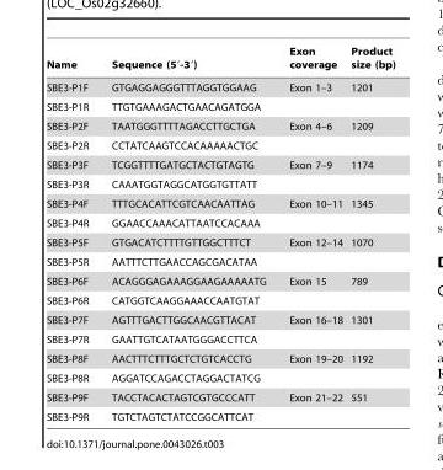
<table><thead><tr><td>Name</td><td>Sequence (5′-3′)</td><td>Exon coverage</td><td>Product size (bp)</td></tr></thead><tbody><tr><td>SBE3-P1F</td><td>GTGAGGAGGGTTTAGGTGGAAG</td><td>Exon 1–3</td><td>1201</td></tr><tr><td>SBE3-P1R</td><td>TTGTGAAAGACTGAACAGATGGA</td><td></td><td></td></tr><tr><td>SBE3-P2F</td><td>TAATGGGTTTTAGACCTTGCTGA</td><td>Exon 4–6</td><td>1209</td></tr><tr><td>SBE3-P2R</td><td>CCTATCAAGTCCACAAAAACTGC</td><td></td><td></td></tr><tr><td>SBE3-P3F</td><td>TCGGTTTTGATGCTACTGTAGTG</td><td>Exon 7–9</td><td>1174</td></tr><tr><td>SBE3-P3R</td><td>CAAATGGTAGGCATGGTGTTATT</td><td></td><td></td></tr><tr><td>SBE3-P4F</td><td>TTTGCACATTCGTCAACAATTAG</td><td>Exon 10–11</td><td>1345</td></tr><tr><td>SBE3-P4R</td><td>GGAACCAAACATTAATCCACAAA</td><td></td><td></td></tr><tr><td>SBE3-P5F</td><td>GTGACATCTTTTGTTGGCTTTCT</td><td>Exon 12–14</td><td>1070</td></tr><tr><td>SBE3-P5R</td><td>AATTTCTTGAACCAGCGACATAA</td><td></td><td></td></tr><tr><td>SBE3-P6F</td><td>ACAGGGAGAAAGGAAGAAAAATG</td><td>Exon 15</td><td>789</td></tr><tr><td>SBE3-P6R</td><td>CATGGTCAAGGAAACCAATGTAT</td><td></td><td></td></tr><tr><td>SBE3-P7F</td><td>AGTTTGACTTGGCAACGTTACAT</td><td>Exon 16–18</td><td>1301</td></tr><tr><td>SBE3-P7R</td><td>GAATTGTCATAATGGGACCTTCA</td><td></td><td></td></tr><tr><td>SBE3-P8F</td><td>AACTTTCTTTGCTCTGTCACCTG</td><td>Exon 19–20</td><td>1192</td></tr><tr><td>SBE3-P8R</td><td>AGGATCCAGACCTAGGACTATCG</td><td></td><td></td></tr><tr><td>SBE3-P9F</td><td>TACCTACACTAGTCGTGCCCATT</td><td>Exon 21–22</td><td>551</td></tr><tr><td>SBE3-P9R</td><td>TGTCTAGTCTATCCGGCATTCAT</td><td></td><td></td></tr></tbody></table>